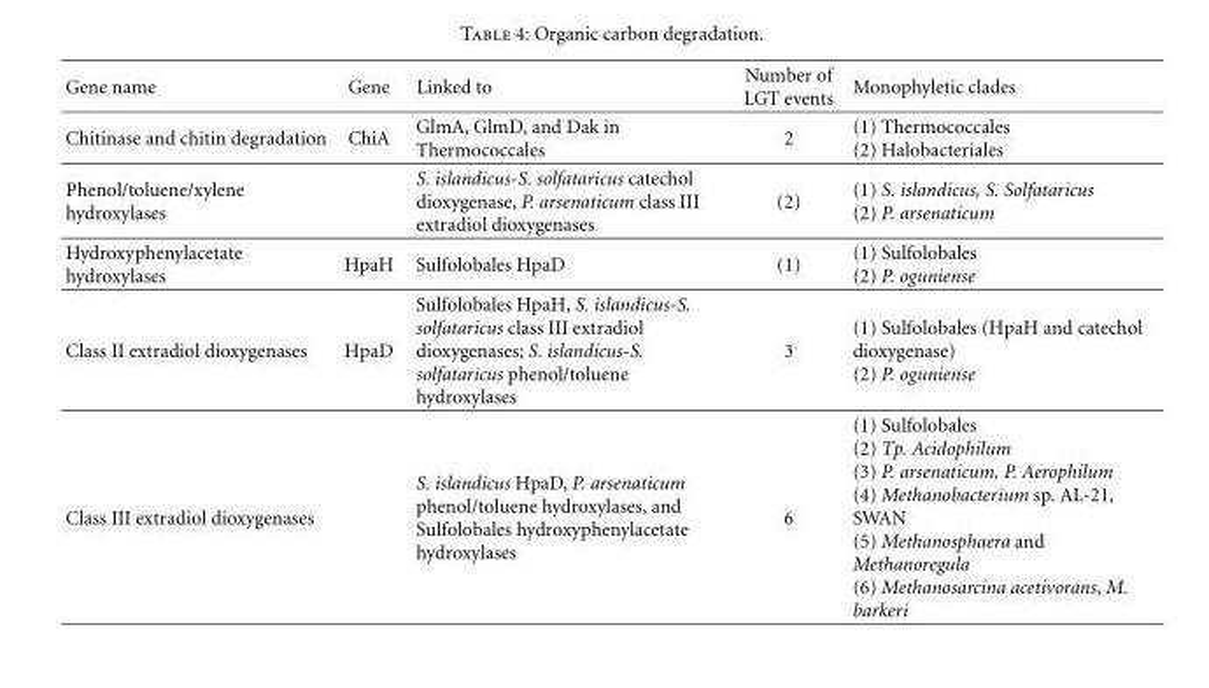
<table><thead><tr><td>Gene name</td><td>Gene</td><td>Linked to</td><td>Number of LGT events</td><td>Monophyletic clades</td></tr></thead><tbody><tr><td>Chitinase and chitin degradation</td><td>ChiA</td><td>GlmA, GlmD, and Dak in Thermococcales</td><td>2</td><td>(1) Thermococcales (2) Halobacteriales</td></tr><tr><td>Phenol/toluene/xylene hydroxylases</td><td></td><td>S. islandicus-S. solfataricus catechol dioxygenase, P. arsenaticum class III extradiol dioxygenases</td><td>(2)</td><td>(1) S. islandicus, S. Solfataricus (2) P. arsenaticum</td></tr><tr><td>Hydroxyphenylacetate hydroxylases</td><td>HpaH</td><td>Sulfolobales HpaD</td><td>(1)</td><td>(1) Sulfolobales (2) P. oguniense</td></tr><tr><td>Class II extradiol dioxygenases</td><td>HpaD</td><td>Sulfolobales HpaH, S. islandicus-S. solfataricus class III extradiol dioxygenases; S. islandicus-S. solfataricus phenol/toluene hydroxylases</td><td>3</td><td>(1) Sulfolobales (HpaH and catechol dioxygenase) (2) P. oguniense</td></tr><tr><td>Class III extradiol dioxygenases</td><td></td><td>S. islandicus HpaD, P. arsenaticum phenol/toluene hydroxylases, and Sulfolobales hydroxyphenylacetate hydroxylases</td><td>6</td><td>(1) Sulfolobales (2) Tp. Acidophilum (3) P. arsenaticum, P. Aerophilum (4) Methanobacterium sp. AL-21, SWAN (5) Methanosphaera and Methanoregula (6) Methanosarcina acetivorans, M. barkeri</td></tr></tbody></table>